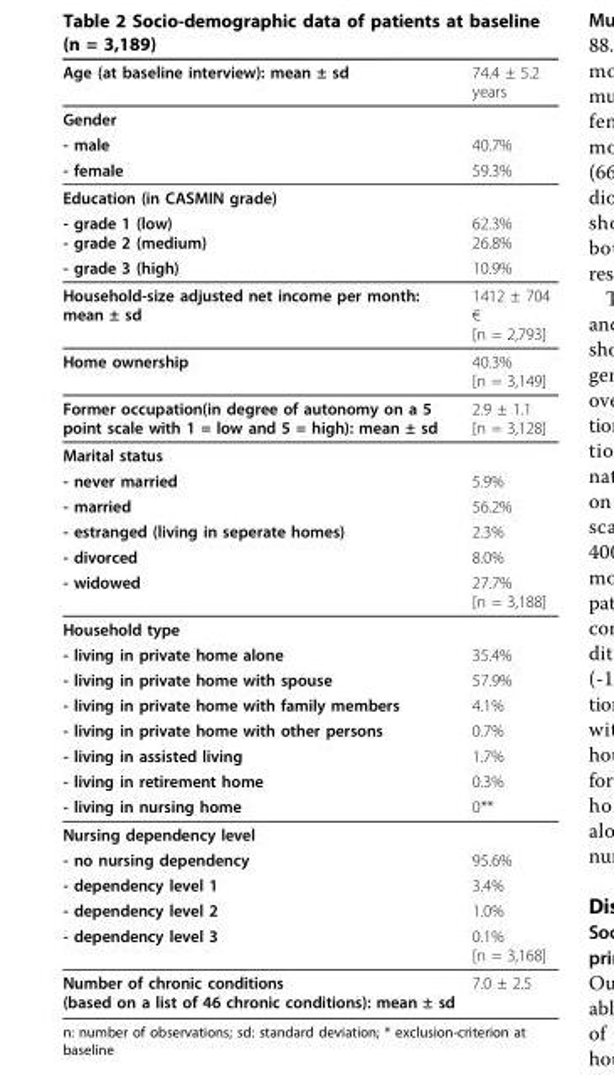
<table><thead><tr><td>Age (at baseline interview): mean ± sd</td><td>74.4 ± 5.2 years</td></tr></thead><tbody><tr><td colspan="2">Gender</td></tr><tr><td>- male</td><td>40.7%</td></tr><tr><td>- female</td><td>59.3%</td></tr><tr><td colspan="2">Education (in CASMIN grade)</td></tr><tr><td>- grade 1 (low) - grade 2 (medium)</td><td>62.3% 26.8%</td></tr><tr><td>- grade 3 (high)</td><td>10.9%</td></tr><tr><td>Household-size adjusted net income per month: mean ± sd</td><td>1412 ± 704 € [n = 2,793]</td></tr><tr><td>Home ownership</td><td>40.3% [n = 3,149]</td></tr><tr><td>Former occupation(in degree of autonomy on a 5 point scale with 1 = low and 5 = high): mean ± sd</td><td>2.9 ± 1.1 [n = 3,128]</td></tr><tr><td colspan="2">Marital status</td></tr><tr><td>- never married</td><td>5.9%</td></tr><tr><td>- married</td><td>56.2%</td></tr><tr><td>- estranged (living in seperate homes)</td><td>2.3%</td></tr><tr><td>- divorced</td><td>8.0%</td></tr><tr><td>- widowed</td><td>27.7% [n = 3,188]</td></tr><tr><td colspan="2">Household type</td></tr><tr><td>- living in private home alone</td><td>35.4%</td></tr><tr><td>- living in private home with spouse</td><td>57.9%</td></tr><tr><td>- living in private home with family members</td><td>4.1%</td></tr><tr><td>- living in private home with other persons</td><td>0.7%</td></tr><tr><td>- living in assisted living</td><td>1.7%</td></tr><tr><td>- living in retirement home</td><td>0.3%</td></tr><tr><td>- living in nursing home</td><td>0**</td></tr><tr><td colspan="2">Nursing dependency level</td></tr><tr><td>- no nursing dependency</td><td>95.6%</td></tr><tr><td>- dependency level 1</td><td>3.4%</td></tr><tr><td>- dependency level 2</td><td>1.0%</td></tr><tr><td>- dependency level 3</td><td>0.1% [n = 3,168]</td></tr><tr><td>Number of chronic conditions (based on a list of 46 chronic conditions): mean ± sd</td><td>7.0 ± 2.5</td></tr></tbody></table>